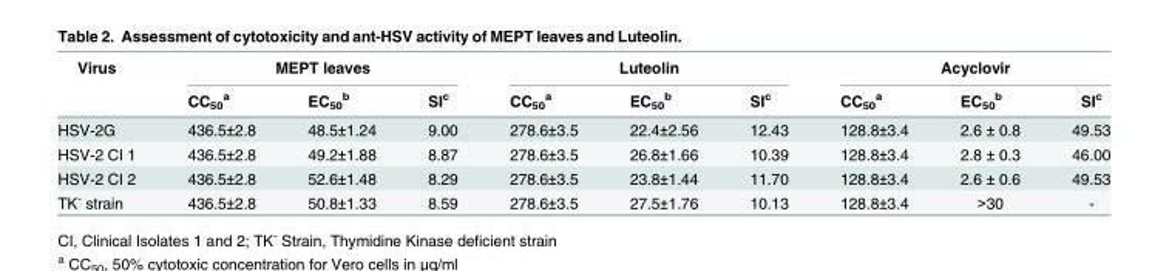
<table><thead><tr><td rowspan="2">Virus</td><td colspan="3">MEPT leaves</td><td colspan="3">Luteolin</td><td colspan="3">Acyclovir</td></tr><tr><td>CC<sub>50</sub> <sup>a</sup></td><td>EC<sub>50</sub> <sup>b</sup></td><td>SI<sup>c</sup></td><td>CC<sub>50</sub> <sup>a</sup></td><td>EC<sub>50</sub> <sup>b</sup></td><td>SI<sup>c</sup></td><td>CC<sub>50</sub> <sup>a</sup></td><td>EC<sub>50</sub> <sup>b</sup></td><td>SI<sup>c</sup></td></tr></thead><tbody><tr><td>HSV-2G</td><td>436.5±2.8</td><td>48.5±1.24</td><td>9.00</td><td>278.6±3.5</td><td>22.4±2.56</td><td>12.43</td><td>128.8±3.4</td><td>2.6 ± 0.8</td><td>49.53</td></tr><tr><td>HSV-2 CI 1</td><td>436.5±2.8</td><td>49.2±1.88</td><td>8.87</td><td>278.6±3.5</td><td>26.8±1.66</td><td>10.39</td><td>128.8±3.4</td><td>2.8 ± 0.3</td><td>46.00</td></tr><tr><td>HSV-2 CI 2</td><td>436.5±2.8</td><td>52.6±1.48</td><td>8.29</td><td>278.6±3.5</td><td>23.8±1.44</td><td>11.70</td><td>128.8±3.4</td><td>2.6 ± 0.6</td><td>49.53</td></tr><tr><td>TK<sup>-</sup> strain</td><td>436.5±2.8</td><td>50.8±1.33</td><td>8.59</td><td>278.6±3.5</td><td>27.5±1.76</td><td>10.13</td><td>128.8±3.4</td><td>&gt;30</td><td>-</td></tr></tbody></table>